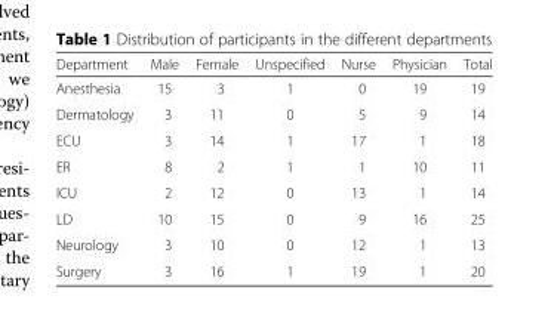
<table><thead><tr><td>Department</td><td>Male</td><td>Female</td><td>Unspecified</td><td>Nurse</td><td>Physician</td><td>Total</td></tr></thead><tbody><tr><td>Anesthesia</td><td>15</td><td>3</td><td>1</td><td>0</td><td>19</td><td>19</td></tr><tr><td>Dermatology</td><td>3</td><td>11</td><td>0</td><td>5</td><td>9</td><td>14</td></tr><tr><td>ECU</td><td>3</td><td>14</td><td>1</td><td>17</td><td>1</td><td>18</td></tr><tr><td>ER</td><td>8</td><td>2</td><td>1</td><td>1</td><td>10</td><td>11</td></tr><tr><td>ICU</td><td>2</td><td>12</td><td>0</td><td>13</td><td>1</td><td>14</td></tr><tr><td>LD</td><td>10</td><td>15</td><td>0</td><td>9</td><td>16</td><td>25</td></tr><tr><td>Neurology</td><td>3</td><td>10</td><td>0</td><td>12</td><td>1</td><td>13</td></tr><tr><td>Surgery</td><td>3</td><td>16</td><td>1</td><td>19</td><td>1</td><td>20</td></tr></tbody></table>